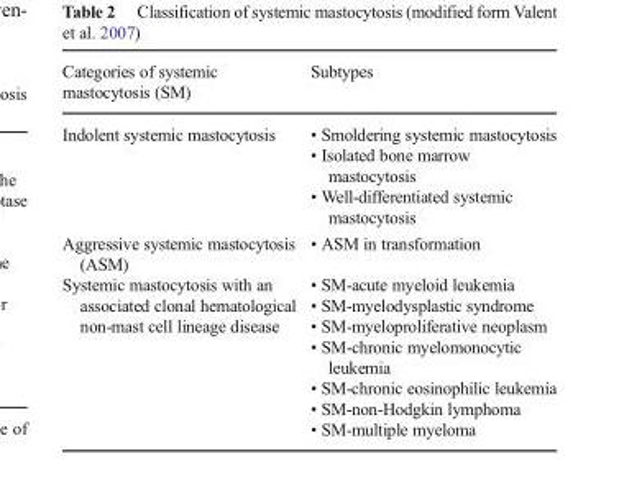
<table><thead><tr><td>Categories of systemic mastocytosis (SM)</td><td>Subtypes</td></tr></thead><tbody><tr><td>Indolent systemic mastocytosis</td><td>• Smoldering systemic mastocytosis • Isolated bone marrow mastocytosis • Well-differentiated systemic mastocytosis</td></tr><tr><td>Aggressive systemic mastocytosis (ASM)</td><td>• ASM in transformation</td></tr><tr><td>Systemic mastocytosis with an associated clonal hematological non-mast cell lineage disease</td><td>• SM-acute myeloid leukemia • SM-myelodysplastic syndrome • SM-myeloproliferative neoplasm • SM-chronic myelomonocytic leukemia • SM-chronic eosinophilic leukemia • SM-non-Hodgkin lymphoma • SM-multiple myeloma</td></tr></tbody></table>